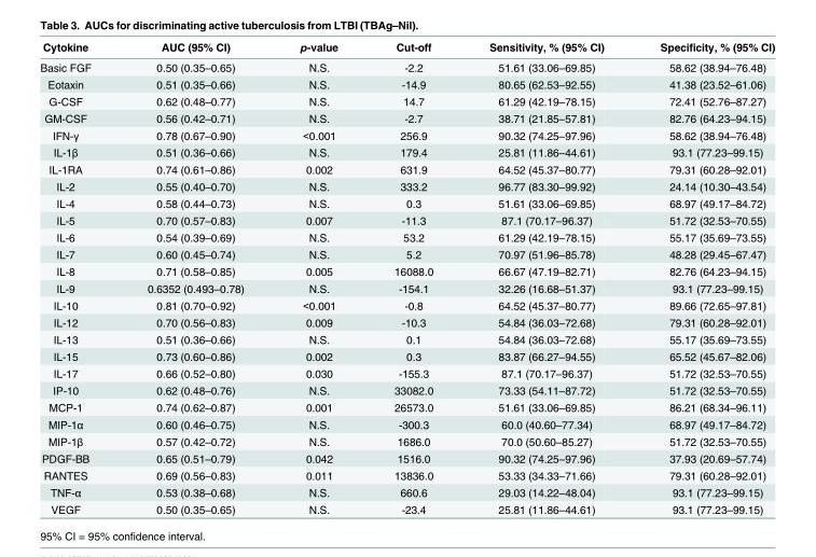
<table><thead><tr><td>Cytokine</td><td>AUC (95% CI)</td><td>p-value</td><td>Cut-off</td><td>Sensitivity, % (95% CI)</td><td>Specificity, % (95% CI)</td></tr></thead><tbody><tr><td>Basic FGF</td><td>0.50 (0.35–0.65)</td><td>N.S.</td><td>-2.2</td><td>51.61 (33.06–69.85)</td><td>58.62 (38.94–76.48)</td></tr><tr><td>Eotaxin</td><td>0.51 (0.35–0.66)</td><td>N.S.</td><td>-14.9</td><td>80.65 (62.53–92.55)</td><td>41.38 (23.52–61.06)</td></tr><tr><td>G-CSF</td><td>0.62 (0.48–0.77)</td><td>N.S.</td><td>14.7</td><td>61.29 (42.19–78.15)</td><td>72.41 (52.76–87.27)</td></tr><tr><td>GM-CSF</td><td>0.56 (0.42–0.71)</td><td>N.S.</td><td>-2.7</td><td>38.71 (21.85–57.81)</td><td>82.76 (64.23–94.15)</td></tr><tr><td>IFN-γ</td><td>0.78 (0.67–0.90)</td><td>&lt;0.001</td><td>256.9</td><td>90.32 (74.25–97.96)</td><td>58.62 (38.94–76.48)</td></tr><tr><td>IL-1β</td><td>0.51 (0.36–0.66)</td><td>N.S.</td><td>179.4</td><td>25.81 (11.86–44.61)</td><td>93.1 (77.23–99.15)</td></tr><tr><td>IL-1RA</td><td>0.74 (0.61–0.86)</td><td>0.002</td><td>631.9</td><td>64.52 (45.37–80.77)</td><td>79.31 (60.28–92.01)</td></tr><tr><td>IL-2</td><td>0.55 (0.40–0.70)</td><td>N.S.</td><td>333.2</td><td>96.77 (83.30–99.92)</td><td>24.14 (10.30–43.54)</td></tr><tr><td>IL-4</td><td>0.58 (0.44–0.73)</td><td>N.S.</td><td>0.3</td><td>51.61 (33.06–69.85)</td><td>68.97 (49.17–84.72)</td></tr><tr><td>IL-5</td><td>0.70 (0.57–0.83)</td><td>0.007</td><td>-11.3</td><td>87.1 (70.17–96.37)</td><td>51.72 (32.53–70.55)</td></tr><tr><td>IL-6</td><td>0.54 (0.39–0.69)</td><td>N.S.</td><td>53.2</td><td>61.29 (42.19–78.15)</td><td>55.17 (35.69–73.55)</td></tr><tr><td>IL-7</td><td>0.60 (0.45–0.74)</td><td>N.S.</td><td>5.2</td><td>70.97 (51.96–85.78)</td><td>48.28 (29.45–67.47)</td></tr><tr><td>IL-8</td><td>0.71 (0.58–0.85)</td><td>0.005</td><td>16088.0</td><td>66.67 (47.19–82.71)</td><td>82.76 (64.23–94.15)</td></tr><tr><td>IL-9</td><td>0.6352 (0.493–0.78)</td><td>N.S.</td><td>-154.1</td><td>32.26 (16.68–51.37)</td><td>93.1 (77.23–99.15)</td></tr><tr><td>IL-10</td><td>0.81 (0.70–0.92)</td><td>&lt;0.001</td><td>-0.8</td><td>64.52 (45.37–80.77)</td><td>89.66 (72.65–97.81)</td></tr><tr><td>IL-12</td><td>0.70 (0.56–0.83)</td><td>0.009</td><td>-10.3</td><td>54.84 (36.03–72.68)</td><td>79.31 (60.28–92.01)</td></tr><tr><td>IL-13</td><td>0.51 (0.36–0.66)</td><td>N.S.</td><td>0.1</td><td>54.84 (36.03–72.68)</td><td>55.17 (35.69–73.55)</td></tr><tr><td>IL-15</td><td>0.73 (0.60–0.86)</td><td>0.002</td><td>0.3</td><td>83.87 (66.27–94.55)</td><td>65.52 (45.67–82.06)</td></tr><tr><td>IL-17</td><td>0.66 (0.52–0.80)</td><td>0.030</td><td>-155.3</td><td>87.1 (70.17–96.37)</td><td>51.72 (32.53–70.55)</td></tr><tr><td>IP-10</td><td>0.62 (0.48–0.76)</td><td>N.S.</td><td>33082.0</td><td>73.33 (54.11–87.72)</td><td>51.72 (32.53–70.55)</td></tr><tr><td>MCP-1</td><td>0.74 (0.62–0.87)</td><td>0.001</td><td>26573.0</td><td>51.61 (33.06–69.85)</td><td>86.21 (68.34–96.11)</td></tr><tr><td>MIP-1α</td><td>0.60 (0.46–0.75)</td><td>N.S.</td><td>-300.3</td><td>60.0 (40.60–77.34)</td><td>68.97 (49.17–84.72)</td></tr><tr><td>MIP-1β</td><td>0.57 (0.42–0.72)</td><td>N.S.</td><td>1686.0</td><td>70.0 (50.60–85.27)</td><td>51.72 (32.53–70.55)</td></tr><tr><td>PDGF-BB</td><td>0.65 (0.51–0.79)</td><td>0.042</td><td>1516.0</td><td>90.32 (74.25–97.96)</td><td>37.93 (20.69–57.74)</td></tr><tr><td>RANTES</td><td>0.69 (0.56–0.83)</td><td>0.011</td><td>13836.0</td><td>53.33 (34.33–71.66)</td><td>79.31 (60.28–92.01)</td></tr><tr><td>TNF-α</td><td>0.53 (0.38–0.68)</td><td>N.S.</td><td>660.6</td><td>29.03 (14.22–48.04)</td><td>93.1 (77.23–99.15)</td></tr><tr><td>VEGF</td><td>0.50 (0.35–0.65)</td><td>N.S.</td><td>-23.4</td><td>25.81 (11.86–44.61)</td><td>93.1 (77.23–99.15)</td></tr></tbody></table>